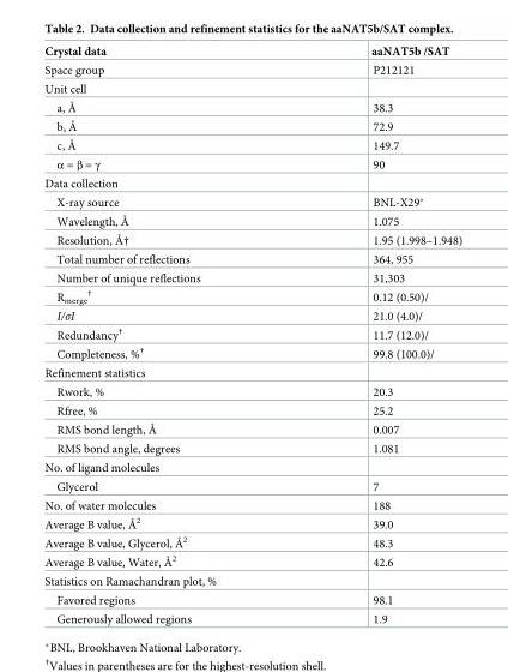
<table><thead><tr><td>Crystal data</td><td>aaNAT5b /SAT</td></tr></thead><tbody><tr><td>Space group</td><td>P212121</td></tr><tr><td colspan="2">Unit cell</td></tr><tr><td>a, Å</td><td>38.3</td></tr><tr><td>b, Å</td><td>72.9</td></tr><tr><td>c, Å</td><td>149.7</td></tr><tr><td>α = β = γ</td><td>90</td></tr><tr><td colspan="2">Data collection</td></tr><tr><td>X-ray source</td><td>BNL-X29*</td></tr><tr><td>Wavelength, Å</td><td>1.075</td></tr><tr><td>Resolution, Å†</td><td>1.95 (1.998–1.948)</td></tr><tr><td>Total number of reflections</td><td>364, 955</td></tr><tr><td>Number of unique reflections</td><td>31,303</td></tr><tr><td>R<sub>merge</sub> <sup>†</sup></td><td>0.12 (0.50)/</td></tr><tr><td>I/σI</td><td>21.0 (4.0)/</td></tr><tr><td>Redundancy<sup>†</sup></td><td>11.7 (12.0)/</td></tr><tr><td>Completeness, %<sup>†</sup></td><td>99.8 (100.0)/</td></tr><tr><td colspan="2">Refinement statistics</td></tr><tr><td>Rwork, %</td><td>20.3</td></tr><tr><td>Rfree, %</td><td>25.2</td></tr><tr><td>RMS bond length, Å</td><td>0.007</td></tr><tr><td>RMS bond angle, degrees</td><td>1.081</td></tr><tr><td colspan="2">No. of ligand molecules</td></tr><tr><td>Glycerol</td><td>7</td></tr><tr><td>No. of water molecules</td><td>188</td></tr><tr><td>Average B value, Å<sup>2</sup></td><td>39.0</td></tr><tr><td>Average B value, Glycerol, Å<sup>2</sup></td><td>48.3</td></tr><tr><td>Average B value, Water, Å<sup>2</sup></td><td>42.6</td></tr><tr><td colspan="2">Statistics on Ramachandran plot, %</td></tr><tr><td>Favored regions</td><td>98.1</td></tr><tr><td>Generously allowed regions</td><td>1.9</td></tr></tbody></table>